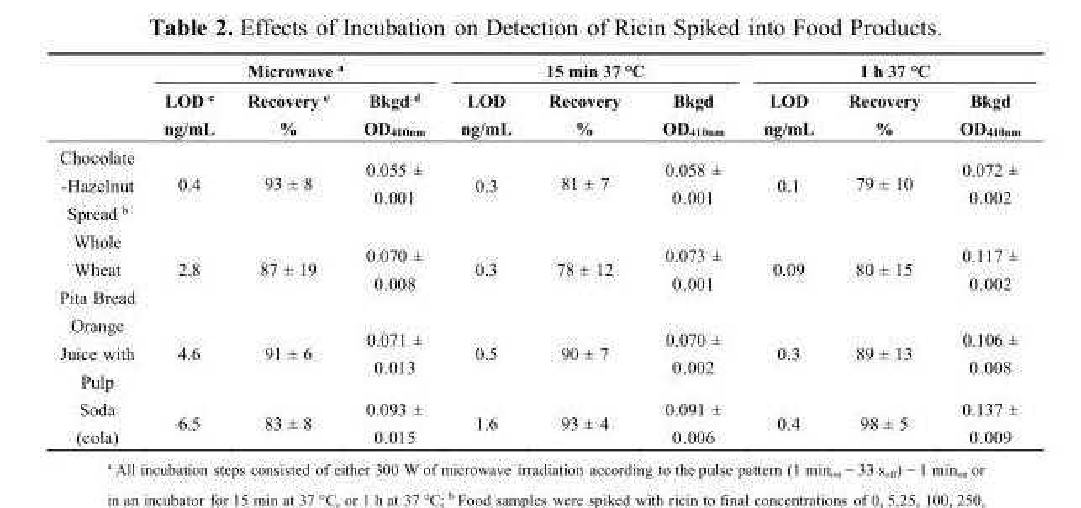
<table><thead><tr><td rowspan="2"></td><td colspan="3">Microwave <sup>a</sup></td><td colspan="3">15 min 37 °C</td><td colspan="3">1 h 37 °C</td></tr><tr><td>LOD <sup>c</sup> ng/mL</td><td>Recovery <sup>e</sup> %</td><td>Bkgd <sup>d</sup> OD<sub>410nm</sub></td><td>LOD ng/mL</td><td>Recovery %</td><td>Bkgd OD<sub>410nm</sub></td><td>LOD ng/mL</td><td>Recovery %</td><td>Bkgd OD<sub>410nm</sub></td></tr></thead><tbody><tr><td>Chocolate -Hazelnut Spread <sup>b</sup></td><td>0.4</td><td>93 ± 8</td><td>0.055 ± 0.001</td><td>0.3</td><td>81 ± 7</td><td>0.058 ± 0.001</td><td>0.1</td><td>79 ± 10</td><td>0.072 ± 0.002</td></tr><tr><td>Whole Wheat Pita Bread</td><td>2.8</td><td>87 ± 19</td><td>0.070 ± 0.008</td><td>0.3</td><td>78 ± 12</td><td>0.073 ± 0.001</td><td>0.09</td><td>80 ± 15</td><td>0.117 ± 0.002</td></tr><tr><td>Orange Juice with Pulp</td><td>4.6</td><td>91 ± 6</td><td>0.071 ± 0.013</td><td>0.5</td><td>90 ± 7</td><td>0.070 ± 0.002</td><td>0.3</td><td>89 ± 13</td><td>0.106 ± 0.008</td></tr><tr><td>Soda (cola)</td><td>6.5</td><td>83 ± 8</td><td>0.093 ± 0.015</td><td>1.6</td><td>93 ± 4</td><td>0.091 ± 0.006</td><td>0.4</td><td>98 ± 5</td><td>0.137 ± 0.009</td></tr></tbody></table>